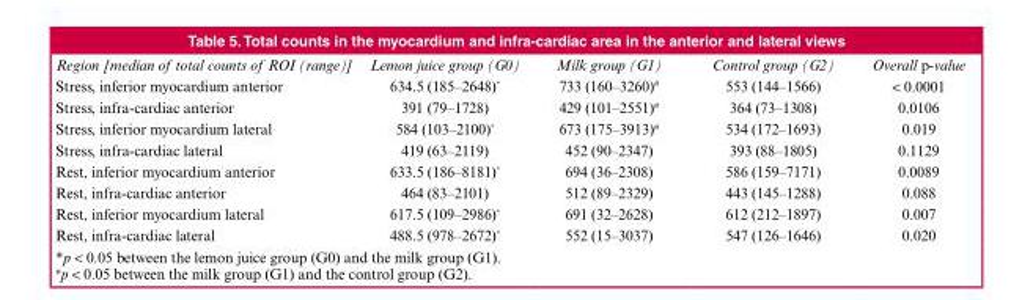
<table><thead><tr><td>Region [median of total counts of ROI (range)]</td><td>Lemon juice group (G0)</td><td>Milk group (G1)</td><td>Control group (G2)</td><td>Overall p-value</td></tr></thead><tbody><tr><td>Stress, inferior myocardium anterior</td><td>634.5 (185–2648)*</td><td>733 (160–3260)#</td><td>553 (144–1566)</td><td>&lt; 0.0001</td></tr><tr><td>Stress, infra-cardiac anterior</td><td>391 (79–1728)</td><td>429 (101–2551)#</td><td>364 (73–1308)</td><td>0.0106</td></tr><tr><td>Stress, inferior myocardium lateral</td><td>584 (103–2100)*</td><td>673 (175–3913)#</td><td>534 (172–1693)</td><td>0.019</td></tr><tr><td>Stress, infra-cardiac lateral</td><td>419 (63–2119)</td><td>452 (90–2347)</td><td>393 (88–1805)</td><td>0.1129</td></tr><tr><td>Rest, inferior myocardium anterior</td><td>633.5 (186–8181)*</td><td>694 (36–2308)</td><td>586 (159–7171)</td><td>0.0089</td></tr><tr><td>Rest, infra-cardiac anterior</td><td>464 (83–2101)</td><td>512 (89–2329)</td><td>443 (145–1288)</td><td>0.088</td></tr><tr><td>Rest, inferior myocardium lateral</td><td>617.5 (109–2986)*</td><td>691 (32–2628)</td><td>612 (212–1897)</td><td>0.007</td></tr><tr><td>Rest, infra-cardiac lateral</td><td>488.5 (978–2672)*</td><td>552 (15–3037)</td><td>547 (126–1646)</td><td>0.020</td></tr></tbody></table>